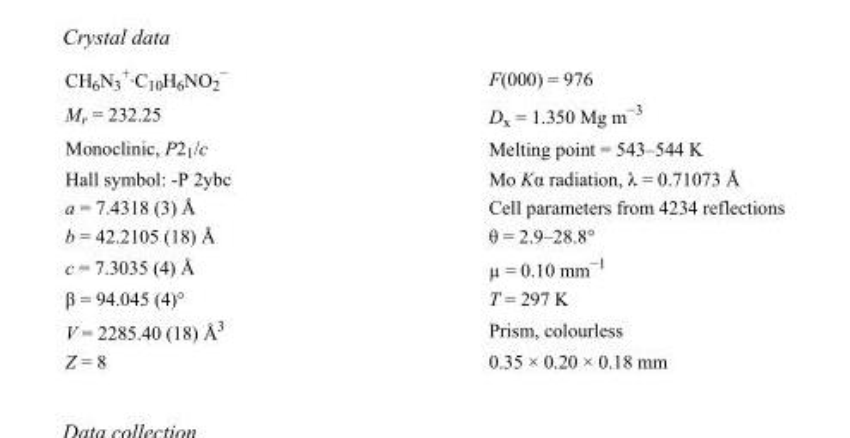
<table><tbody><tr><td>CH<sub>6</sub>N<sub>3</sub> <sup>+</sup>·C<sub>10</sub>H<sub>6</sub>NO<sub>2</sub> <sup>−</sup></td><td>F(000) = 976</td></tr><tr><td>M<sub>r</sub> = 232.25</td><td>D<sub>x</sub> = 1.350 Mg m<sup>−3</sup></td></tr><tr><td>Monoclinic, P2<sub>1</sub>/c</td><td>Melting point = 543–544 K</td></tr><tr><td>Hall symbol: -P 2ybc</td><td>Mo Kα radiation, λ = 0.71073 Å</td></tr><tr><td>a = 7.4318 (3) Å</td><td>Cell parameters from 4234 reflections</td></tr><tr><td>b = 42.2105 (18) Å</td><td>θ = 2.9–28.8°</td></tr><tr><td>c = 7.3035 (4) Å</td><td>µ = 0.10 mm<sup>−1</sup></td></tr><tr><td>β = 94.045 (4)°</td><td>T = 297 K</td></tr><tr><td>V = 2285.40 (18) Å<sup>3</sup></td><td>Prism, colourless</td></tr><tr><td>Z = 8</td><td>0.35 × 0.20 × 0.18 mm</td></tr></tbody></table>